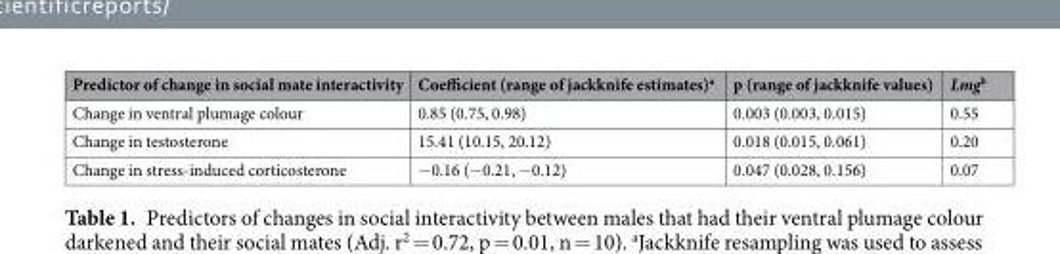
<table><thead><tr><td>Predictor of change in social mate interactivity</td><td>Coefficient (range of jackknife estimates)<sup>a</sup></td><td>p (range of jackknife values)</td><td>Lmg<sup>b</sup></td></tr></thead><tbody><tr><td>Change in ventral plumage colour</td><td>0.85 (0.75, 0.98)</td><td>0.003 (0.003, 0.015)</td><td>0.55</td></tr><tr><td>Change in testosterone</td><td>15.41 (10.15, 20.12)</td><td>0.018 (0.015, 0.061)</td><td>0.20</td></tr><tr><td>Change in stress-induced corticosterone</td><td>−0.16 (−0.21, −0.12)</td><td>0.047 (0.028, 0.156)</td><td>0.07</td></tr></tbody></table>